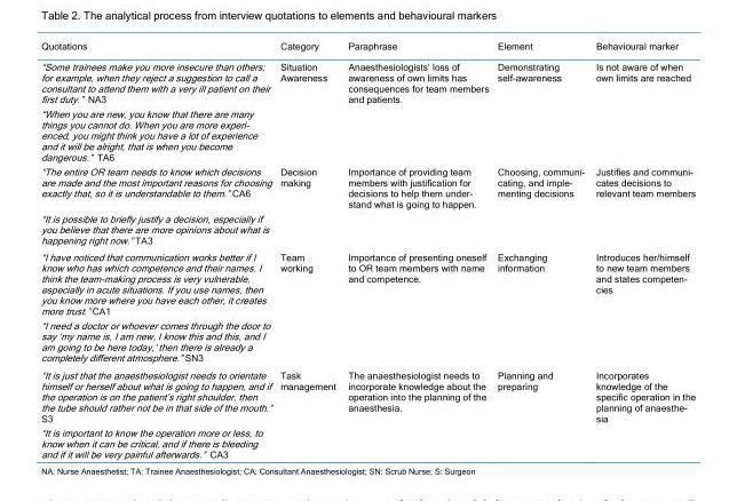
<table><tbody><tr><td>Quotations</td><td>Category</td><td>Paraphrase</td><td>Element</td><td>Behavioural marker</td></tr><tr><td>“Some trainees make you more insecure than others; for example, when they reject a suggestion to call a consultant to attend them with a very ill patient on their first duty.” NA3</td><td>Situation Awareness</td><td>Anaesthesiologists’ loss of awareness of own limits has consequences for team members and patients.</td><td>Demonstrating self-awareness</td><td>Is not aware of when own limits are reached</td></tr><tr><td colspan="5">“When you are new, you know that there are many things you cannot do. When you are more experi- enced, you might think you have a lot of experience and it will be alright, that is when you become dangerous.” TA6</td></tr><tr><td>“The entire OR team needs to know which decisions are made and the most important reasons for choosing exactly that, so it is understandable to them.” CA6</td><td>Decision making</td><td>Importance of providing team members with justification for decisions to help them under- stand what is going to happen.</td><td>Choosing, communi- cating, and imple- menting decisions</td><td>Justifies and communi- cates decisions to relevant team members</td></tr><tr><td colspan="5">“It is possible to briefly justify a decision, especially if you believe that there are more opinions about what is happening right now.” TA3</td></tr><tr><td>“I have noticed that communication works better if I know who has which competence and their names. I think the team-making process is very vulnerable, especially in acute situations. If you use names, then you know more where you have each other, it creates more trust.” CA1</td><td>Team working</td><td>Importance of presenting oneself to OR team members with name and competence.</td><td>Exchanging information</td><td>Introduces her/himself to new team members and states competen- cies</td></tr><tr><td colspan="5">“I need a doctor or whoever comes through the door to say ‘my name is, I am new, I know this and this, and I am going to be here today,’ then there is already a completely different atmosphere.” SN3</td></tr><tr><td>“It is just that the anaesthesiologist needs to orientate himself or herself about what is going to happen, and if the operation is on the patient’s right shoulder, then the tube should rather not be in that side of the mouth.” S3</td><td>Task management</td><td>The anaesthesiologist needs to incorporate knowledge about the operation into the planning of the anaesthesia.</td><td>Planning and preparing</td><td>Incorporates knowledge of the specific operation in the planning of anaesthe- sia</td></tr><tr><td>“It is important to know the operation more or less, to know when it can be critical, and if there is bleeding and if it will be very painful afterwards.” CA3</td><td></td><td></td><td></td><td></td></tr></tbody></table>